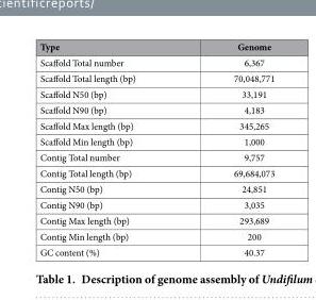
<table><thead><tr><td>Type</td><td>Genome</td></tr></thead><tbody><tr><td>Scaffold Total number</td><td>6,367</td></tr><tr><td>Scaffold Total length (bp)</td><td>70,048,771</td></tr><tr><td>Scaffold N50 (bp)</td><td>33,191</td></tr><tr><td>Scaffold N90 (bp)</td><td>4,183</td></tr><tr><td>Scaffold Max length (bp)</td><td>345,265</td></tr><tr><td>Scaffold Min length (bp)</td><td>1,000</td></tr><tr><td>Contig Total number</td><td>9,757</td></tr><tr><td>Contig Total length (bp)</td><td>69,684,073</td></tr><tr><td>Contig N50 (bp)</td><td>24,851</td></tr><tr><td>Contig N90 (bp)</td><td>3,035</td></tr><tr><td>Contig Max length (bp)</td><td>293,689</td></tr><tr><td>Contig Min length (bp)</td><td>200</td></tr><tr><td>GC content (%)</td><td>40.37</td></tr></tbody></table>